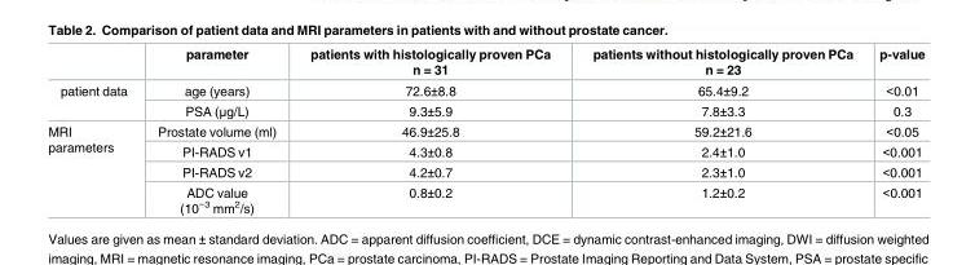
<table><thead><tr><td></td><td>parameter</td><td>patients with histologically proven PCa n = 31</td><td>patients without histologically proven PCa n = 23</td><td>p-value</td></tr></thead><tbody><tr><td rowspan="2">patient data</td><td>age (years)</td><td>72.6±8.8</td><td>65.4±9.2</td><td>&lt;0.01</td></tr><tr><td>PSA (μg/L)</td><td>9.3±5.9</td><td>7.8±3.3</td><td>0.3</td></tr><tr><td rowspan="4">MRI parameters</td><td>Prostate volume (ml)</td><td>46.9±25.8</td><td>59.2±21.6</td><td>&lt;0.05</td></tr><tr><td>PI-RADS v1</td><td>4.3±0.8</td><td>2.4±1.0</td><td>&lt;0.001</td></tr><tr><td>PI-RADS v2</td><td>4.2±0.7</td><td>2.3±1.0</td><td>&lt;0.001</td></tr><tr><td>ADC value (10<sup>−3</sup> mm<sup>2</sup>/s)</td><td>0.8±0.2</td><td>1.2±0.2</td><td>&lt;0.001</td></tr></tbody></table>